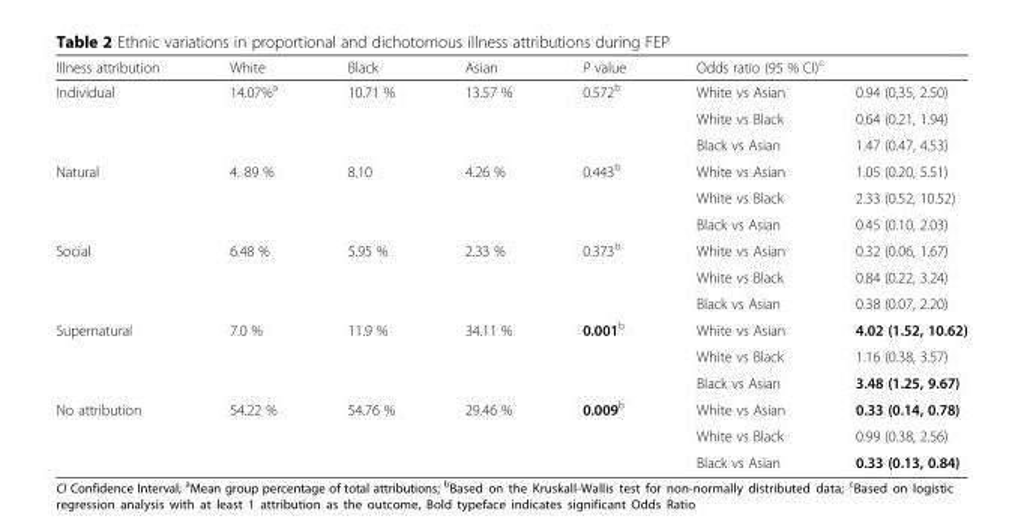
<table><thead><tr><td rowspan="2">Illness attribution Individual</td><td rowspan="2">White 14.07%<sup>a</sup></td><td rowspan="2">Black 10.71 %</td><td rowspan="2">Asian 13.57 %</td><td rowspan="2">P value 0.572<sup>b</sup></td><td colspan="2">Odds ratio (95 % CI)<sup>c</sup></td></tr><tr><td>White vs Asian</td><td>0.94 (0,35, 2.50)</td></tr></thead><tbody><tr><td></td><td></td><td></td><td></td><td></td><td>White vs Black</td><td>0.64 (0.21, 1.94)</td></tr><tr><td></td><td></td><td></td><td></td><td></td><td>Black vs Asian</td><td>1.47 (0.47, 4.53)</td></tr><tr><td rowspan="3">Natural</td><td>4. 89 %</td><td>8.10</td><td>4.26 %</td><td>0.443<sup>b</sup></td><td>White vs Asian</td><td>1.05 (0.20, 5.51)</td></tr><tr><td></td><td></td><td></td><td></td><td>White vs Black</td><td>2.33 (0.52, 10.52)</td></tr><tr><td></td><td></td><td></td><td></td><td>Black vs Asian</td><td>0.45 (0.10, 2.03)</td></tr><tr><td rowspan="3">Social</td><td>6.48 %</td><td>5.95 %</td><td>2.33 %</td><td>0.373<sup>b</sup></td><td>White vs Asian</td><td>0.32 (0.06, 1.67)</td></tr><tr><td></td><td></td><td></td><td></td><td>White vs Black</td><td>0.84 (0.22, 3.24)</td></tr><tr><td></td><td></td><td></td><td></td><td>Black vs Asian</td><td>0.38 (0.07, 2.20)</td></tr><tr><td rowspan="3">Supernatural</td><td>7.0 %</td><td>11.9 %</td><td>34.11 %</td><td>0.001<sup>b</sup></td><td>White vs Asian</td><td>4.02 (1.52, 10.62)</td></tr><tr><td></td><td></td><td></td><td></td><td>White vs Black</td><td>1.16 (0.38, 3.57)</td></tr><tr><td></td><td></td><td></td><td></td><td>Black vs Asian</td><td>3.48 (1.25, 9.67)</td></tr><tr><td rowspan="3">No attribution</td><td>54.22 %</td><td>54.76 %</td><td>29.46 %</td><td>0.009<sup>b</sup></td><td>White vs Asian</td><td>0.33 (0.14, 0.78)</td></tr><tr><td></td><td></td><td></td><td></td><td>White vs Black</td><td>0.99 (0.38, 2.56)</td></tr><tr><td></td><td></td><td></td><td></td><td>Black vs Asian</td><td>0.33 (0.13, 0.84)</td></tr></tbody></table>